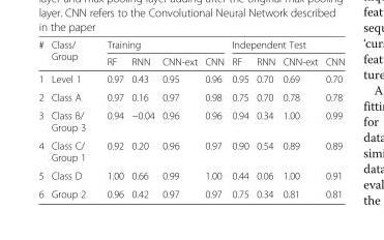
<table><thead><tr><td rowspan="2">#</td><td rowspan="2">Class/ Group</td><td colspan="4">Training</td><td colspan="4">Independent Test</td></tr><tr><td>RF</td><td>RNN</td><td>CNN-ext</td><td>CNN</td><td>RF</td><td>RNN</td><td>CNN-ext</td><td>CNN</td></tr></thead><tbody><tr><td>1</td><td>Level 1</td><td>0.97</td><td>0.43</td><td>0.95</td><td>0.96</td><td>0.95</td><td>0.70</td><td>0.69</td><td>0.70</td></tr><tr><td>2</td><td>Class A</td><td>0.97</td><td>0.16</td><td>0.97</td><td>0.98</td><td>0.75</td><td>0.70</td><td>0.78</td><td>0.78</td></tr><tr><td>3</td><td>Class B/ Group 3</td><td>0.94</td><td>−0.04</td><td>0.96</td><td>0.96</td><td>0.94</td><td>0.34</td><td>1.00</td><td>0.99</td></tr><tr><td>4</td><td>Class C/ Group 1</td><td>0.92</td><td>0.20</td><td>0.96</td><td>0.97</td><td>0.90</td><td>0.54</td><td>0.89</td><td>0.89</td></tr><tr><td>5</td><td>Class D</td><td>1.00</td><td>0.66</td><td>0.99</td><td>1.00</td><td>0.44</td><td>0.06</td><td>1.00</td><td>0.91</td></tr><tr><td>6</td><td>Group 2</td><td>0.96</td><td>0.42</td><td>0.97</td><td>0.97</td><td>0.75</td><td>0.34</td><td>0.81</td><td>0.81</td></tr></tbody></table>